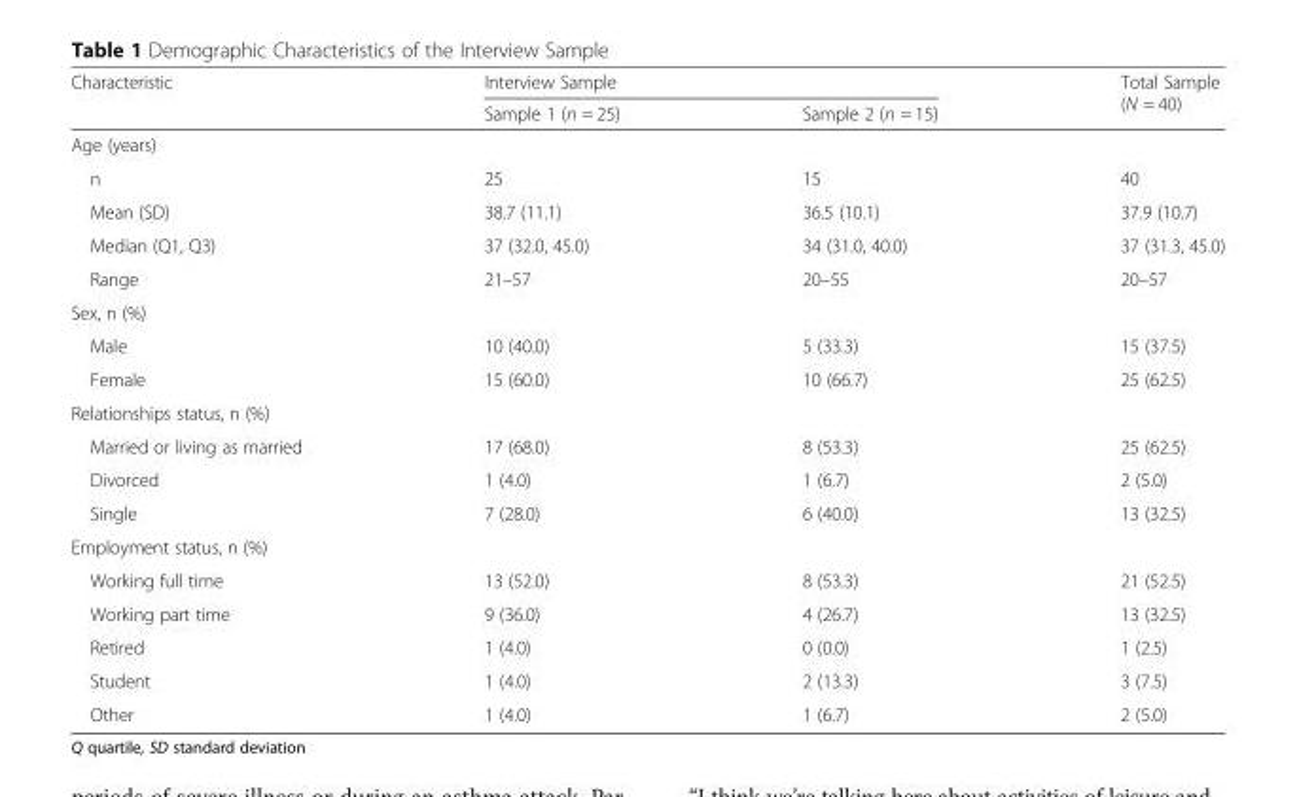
<table><thead><tr><td rowspan="2">Characteristic</td><td colspan="2">Interview Sample</td><td rowspan="2">Total Sample (N = 40)</td></tr><tr><td>Sample 1 (n = 25)</td><td>Sample 2 (n = 15)</td></tr></thead><tbody><tr><td colspan="4">Age (years)</td></tr><tr><td>n</td><td>25</td><td>15</td><td>40</td></tr><tr><td>Mean (SD)</td><td>38.7 (11.1)</td><td>36.5 (10.1)</td><td>37.9 (10.7)</td></tr><tr><td>Median (Q1, Q3)</td><td>37 (32.0, 45.0)</td><td>34 (31.0, 40.0)</td><td>37 (31.3, 45.0)</td></tr><tr><td>Range</td><td>21–57</td><td>20–55</td><td>20–57</td></tr><tr><td colspan="4">Sex, n (%)</td></tr><tr><td>Male</td><td>10 (40.0)</td><td>5 (33.3)</td><td>15 (37.5)</td></tr><tr><td>Female</td><td>15 (60.0)</td><td>10 (66.7)</td><td>25 (62.5)</td></tr><tr><td colspan="4">Relationships status, n (%)</td></tr><tr><td>Married or living as married</td><td>17 (68.0)</td><td>8 (53.3)</td><td>25 (62.5)</td></tr><tr><td>Divorced</td><td>1 (4.0)</td><td>1 (6.7)</td><td>2 (5.0)</td></tr><tr><td>Single</td><td>7 (28.0)</td><td>6 (40.0)</td><td>13 (32.5)</td></tr><tr><td colspan="4">Employment status, n (%)</td></tr><tr><td>Working full time</td><td>13 (52.0)</td><td>8 (53.3)</td><td>21 (52.5)</td></tr><tr><td>Working part time</td><td>9 (36.0)</td><td>4 (26.7)</td><td>13 (32.5)</td></tr><tr><td>Retired</td><td>1 (4.0)</td><td>0 (0.0)</td><td>1 (2.5)</td></tr><tr><td>Student</td><td>1 (4.0)</td><td>2 (13.3)</td><td>3 (7.5)</td></tr><tr><td>Other</td><td>1 (4.0)</td><td>1 (6.7)</td><td>2 (5.0)</td></tr></tbody></table>